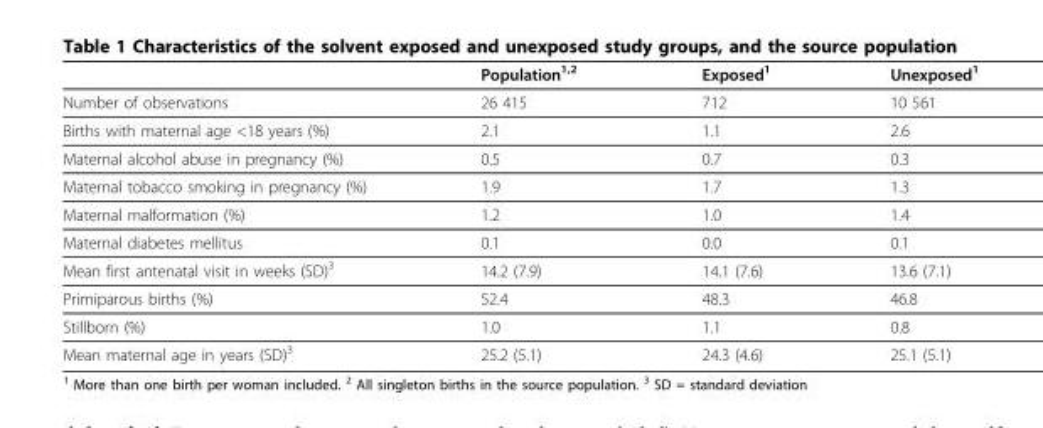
<table><thead><tr><td></td><td>Population<sup>1,2</sup></td><td>Exposed<sup>1</sup></td><td>Unexposed<sup>1</sup></td></tr></thead><tbody><tr><td>Number of observations</td><td>26 415</td><td>712</td><td>10 561</td></tr><tr><td>Births with maternal age &lt;18 years (%)</td><td>2.1</td><td>1.1</td><td>2.6</td></tr><tr><td>Maternal alcohol abuse in pregnancy (%)</td><td>0.5</td><td>0.7</td><td>0.3</td></tr><tr><td>Maternal tobacco smoking in pregnancy (%)</td><td>1.9</td><td>1.7</td><td>1.3</td></tr><tr><td>Maternal malformation (%)</td><td>1.2</td><td>1.0</td><td>1.4</td></tr><tr><td>Maternal diabetes mellitus</td><td>0.1</td><td>0.0</td><td>0.1</td></tr><tr><td>Mean first antenatal visit in weeks (SD)<sup>3</sup></td><td>14.2 (7.9)</td><td>14.1 (7.6)</td><td>13.6 (7.1)</td></tr><tr><td>Primiparous births (%)</td><td>52.4</td><td>48.3</td><td>46.8</td></tr><tr><td>Stillborn (%)</td><td>1.0</td><td>1.1</td><td>0.8</td></tr><tr><td>Mean maternal age in years (SD)<sup>3</sup></td><td>25.2 (5.1)</td><td>24.3 (4.6)</td><td>25.1 (5.1)</td></tr></tbody></table>